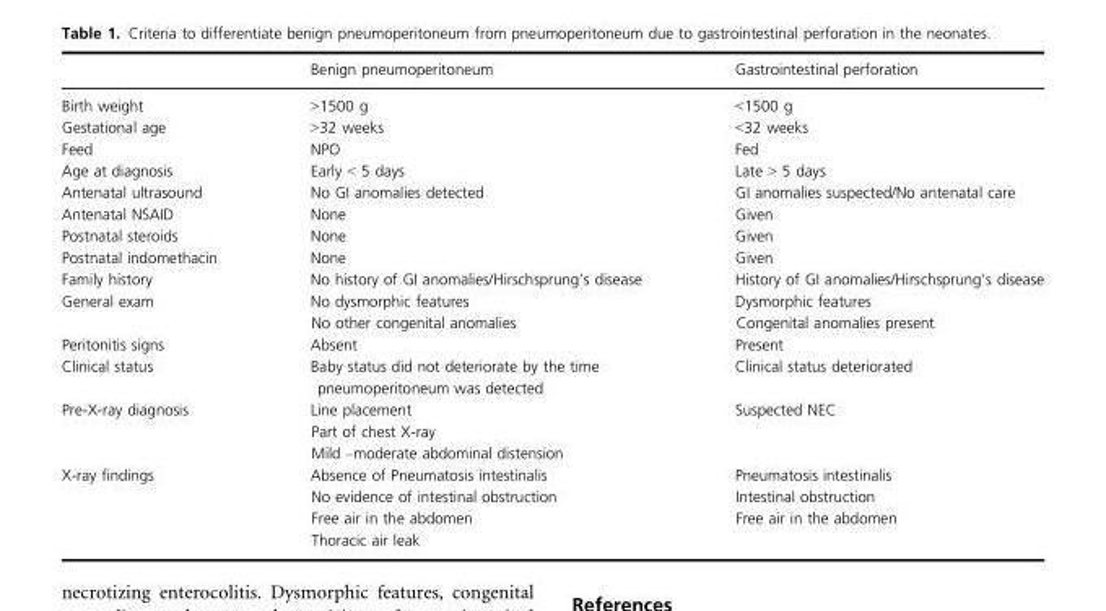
<table><thead><tr><td></td><td>Benign pneumoperitoneum</td><td>Gastrointestinal perforation</td></tr></thead><tbody><tr><td>Birth weight</td><td>&gt;1500 g</td><td>&lt;1500 g</td></tr><tr><td>Gestational age</td><td>&gt;32 weeks</td><td>&lt;32 weeks</td></tr><tr><td>Feed</td><td>NPO</td><td>Fed</td></tr><tr><td>Age at diagnosis</td><td>Early &lt; 5 days</td><td>Late &gt; 5 days</td></tr><tr><td>Antenatal ultrasound</td><td>No GI anomalies detected</td><td>GI anomalies suspected/No antenatal care</td></tr><tr><td>Antenatal NSAID</td><td>None</td><td>Given</td></tr><tr><td>Postnatal steroids</td><td>None</td><td>Given</td></tr><tr><td>Postnatal indomethacin</td><td>None</td><td>Given</td></tr><tr><td>Family history</td><td>No history of GI anomalies/Hirschsprung’s disease</td><td>History of GI anomalies/Hirschsprung’s disease</td></tr><tr><td>General exam</td><td>No dysmorphic features No other congenital anomalies</td><td>Dysmorphic features Congenital anomalies present</td></tr><tr><td>Peritonitis signs</td><td>Absent</td><td>Present</td></tr><tr><td>Clinical status</td><td>Baby status did not deteriorate by the time pneumoperitoneum was detected</td><td>Clinical status deteriorated</td></tr><tr><td>Pre-X-ray diagnosis</td><td>Line placement Part of chest X-ray Mild –moderate abdominal distension</td><td>Suspected NEC</td></tr><tr><td>X-ray findings</td><td>Absence of Pneumatosis intestinalis No evidence of intestinal obstruction Free air in the abdomen Thoracic air leak</td><td>Pneumatosis intestinalis Intestinal obstruction Free air in the abdomen</td></tr></tbody></table>